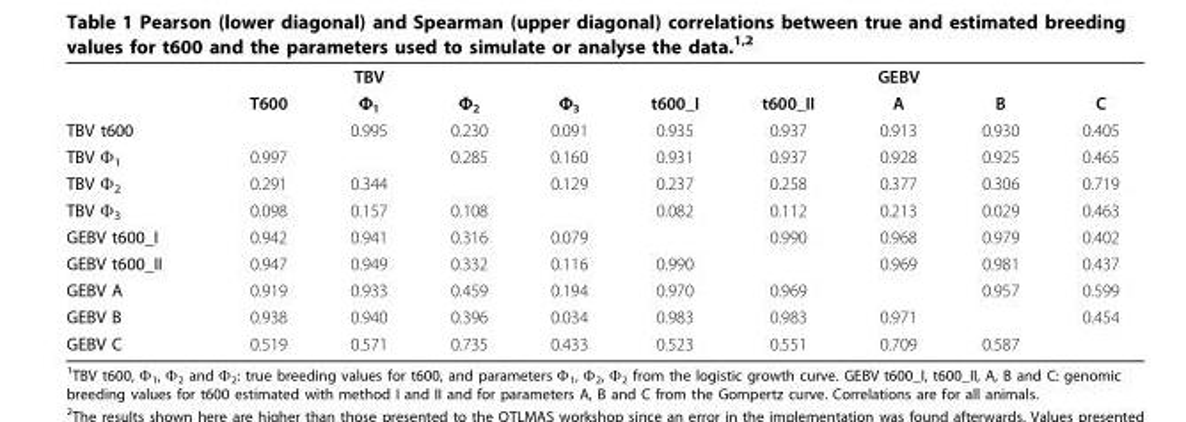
<table><thead><tr><td></td><td></td><td>TBV</td><td></td><td></td><td></td><td></td><td>GEBV</td><td></td><td></td></tr></thead><tbody><tr><td></td><td>T600</td><td>Φ<sub>1</sub></td><td>Φ<sub>2</sub></td><td>Φ<sub>3</sub></td><td>t600_I</td><td>t600_II</td><td>A</td><td>B</td><td>C</td></tr><tr><td>TBV t600</td><td></td><td>0.995</td><td>0.230</td><td>0.091</td><td>0.935</td><td>0.937</td><td>0.913</td><td>0.930</td><td>0.405</td></tr><tr><td>TBV Φ<sub>1</sub></td><td>0.997</td><td></td><td>0.285</td><td>0.160</td><td>0.931</td><td>0.937</td><td>0.928</td><td>0.925</td><td>0.465</td></tr><tr><td>TBV Φ<sub>2</sub></td><td>0.291</td><td>0.344</td><td></td><td>0.129</td><td>0.237</td><td>0.258</td><td>0.377</td><td>0.306</td><td>0.719</td></tr><tr><td>TBV Φ<sub>3</sub></td><td>0.098</td><td>0.157</td><td>0.108</td><td></td><td>0.082</td><td>0.112</td><td>0.213</td><td>0.029</td><td>0.463</td></tr><tr><td>GEBV t600_I</td><td>0.942</td><td>0.941</td><td>0.316</td><td>0.079</td><td></td><td>0.990</td><td>0.968</td><td>0.979</td><td>0.402</td></tr><tr><td>GEBV t600_II</td><td>0.947</td><td>0.949</td><td>0.332</td><td>0.116</td><td>0.990</td><td></td><td>0.969</td><td>0.981</td><td>0.437</td></tr><tr><td>GEBV A</td><td>0.919</td><td>0.933</td><td>0.459</td><td>0.194</td><td>0.970</td><td>0.969</td><td></td><td>0.957</td><td>0.599</td></tr><tr><td>GEBV B</td><td>0.938</td><td>0.940</td><td>0.396</td><td>0.034</td><td>0.983</td><td>0.983</td><td>0.971</td><td></td><td>0.454</td></tr><tr><td>GEBV C</td><td>0.519</td><td>0.571</td><td>0.735</td><td>0.433</td><td>0.523</td><td>0.551</td><td>0.709</td><td>0.587</td><td></td></tr></tbody></table>